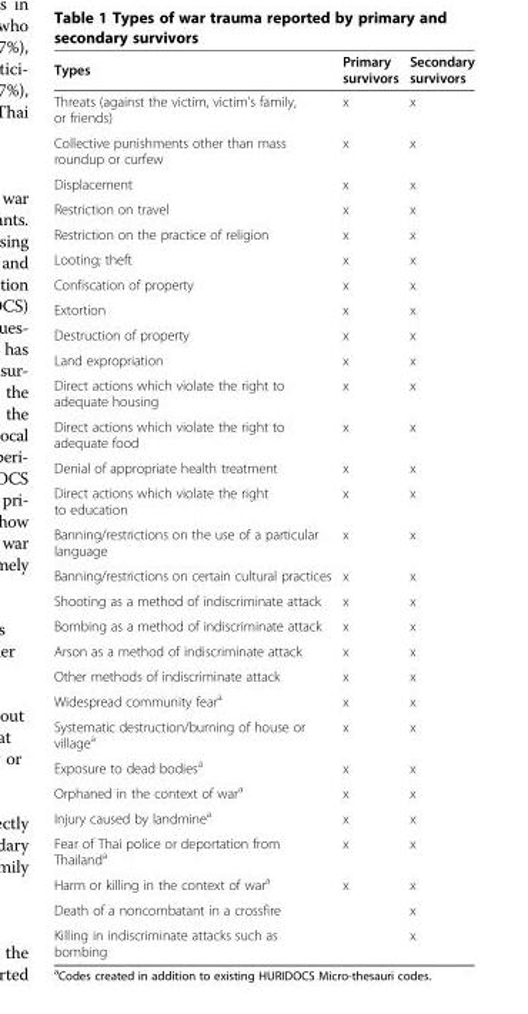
<table><thead><tr><td>Types</td><td>Primary survivors</td><td>Secondary survivors</td></tr></thead><tbody><tr><td>Threats (against the victim, victim&#x27;s family, or friends)</td><td>x</td><td>x</td></tr><tr><td>Collective punishments other than mass roundup or curfew</td><td>x</td><td>x</td></tr><tr><td>Displacement</td><td>x</td><td>x</td></tr><tr><td>Restriction on travel</td><td>x</td><td>x</td></tr><tr><td>Restriction on the practice of religion</td><td>x</td><td>x</td></tr><tr><td>Looting; theft</td><td>x</td><td>x</td></tr><tr><td>Confiscation of property</td><td>x</td><td>x</td></tr><tr><td>Extortion</td><td>x</td><td>x</td></tr><tr><td>Destruction of property</td><td>x</td><td>x</td></tr><tr><td>Land expropriation</td><td>x</td><td>x</td></tr><tr><td>Direct actions which violate the right to adequate housing</td><td>x</td><td>x</td></tr><tr><td>Direct actions which violate the right to adequate food</td><td>x</td><td>x</td></tr><tr><td>Denial of appropriate health treatment</td><td>x</td><td>x</td></tr><tr><td>Direct actions which violate the right to education</td><td>x</td><td>x</td></tr><tr><td>Banning/restrictions on the use of a particular language</td><td>x</td><td>x</td></tr><tr><td>Banning/restrictions on certain cultural practices</td><td>x</td><td>x</td></tr><tr><td>Shooting as a method of indiscriminate attack</td><td>x</td><td>x</td></tr><tr><td>Bombing as a method of indiscriminate attack</td><td>x</td><td>x</td></tr><tr><td>Arson as a method of indiscriminate attack</td><td>x</td><td>x</td></tr><tr><td>Other methods of indiscriminate attack</td><td>x</td><td>x</td></tr><tr><td>Widespread community fear<sup>a</sup></td><td>x</td><td>x</td></tr><tr><td>Systematic destruction/burning of house or village<sup>a</sup></td><td>x</td><td>x</td></tr><tr><td>Exposure to dead bodies<sup>a</sup></td><td>x</td><td>x</td></tr><tr><td>Orphaned in the context of war<sup>a</sup></td><td>x</td><td>x</td></tr><tr><td>Injury caused by landmine<sup>a</sup></td><td>x</td><td>x</td></tr><tr><td>Fear of Thai police or deportation from Thailand<sup>a</sup></td><td>x</td><td>x</td></tr><tr><td>Harm or killing in the context of war<sup>a</sup></td><td>x</td><td>x</td></tr><tr><td>Death of a noncombatant in a crossfire</td><td></td><td>x</td></tr><tr><td>Killing in indiscriminate attacks such as bombing</td><td></td><td>x</td></tr></tbody></table>